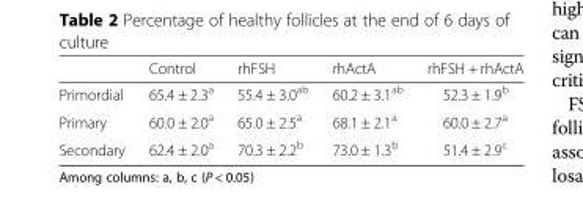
<table><thead><tr><td></td><td>Control</td><td>rhFSH</td><td>rhActA</td><td>rhFSH + rhActA</td></tr></thead><tbody><tr><td>Primordial</td><td>65.4 ± 2.3<sup>a</sup></td><td>55.4 ± 3.0<sup>ab</sup></td><td>60.2 ± 3.1<sup>ab</sup></td><td>52.3 ± 1.9<sup>b</sup></td></tr><tr><td>Primary</td><td>60.0 ± 2.0<sup>a</sup></td><td>65.0 ± 2.5<sup>a</sup></td><td>68.1 ± 2.1<sup>a</sup></td><td>60.0 ± 2.7<sup>a</sup></td></tr><tr><td>Secondary</td><td>62.4 ± 2.0<sup>a</sup></td><td>70.3 ± 2.2<sup>b</sup></td><td>73.0 ± 1.3<sup>b</sup></td><td>51.4 ± 2.9<sup>c</sup></td></tr></tbody></table>